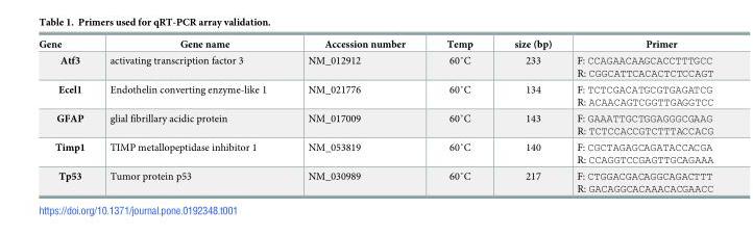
<table><thead><tr><td>Gene</td><td>Gene name</td><td>Accession number</td><td>Temp</td><td>size (bp)</td><td>Primer</td></tr></thead><tbody><tr><td>Atf3</td><td>activating transcription factor 3</td><td>NM_012912</td><td>60˚C</td><td>233</td><td>F: CCAGAACAAGCACCTTTGCC R: CGGCATTCACACTCTCCAGT</td></tr><tr><td>Ecel1</td><td>Endothelin converting enzyme-like 1</td><td>NM_021776</td><td>60˚C</td><td>134</td><td>F: TCTCGACATGCGTGAGATCG R: ACAACAGTCGGTTGAGGTCC</td></tr><tr><td>GFAP</td><td>glial fibrillary acidic protein</td><td>NM_017009</td><td>60˚C</td><td>143</td><td>F: GAAATTGCTGGAGGGCGAAG R: TCTCCACCGTCTTTACCACG</td></tr><tr><td>Timp1</td><td>TIMP metallopeptidase inhibitor 1</td><td>NM_053819</td><td>60˚C</td><td>140</td><td>F: CGCTAGAGCAGATACCACGA R: CCAGGTCCGAGTTGCAGAAA</td></tr><tr><td>Tp53</td><td>Tumor protein p53</td><td>NM_030989</td><td>60˚C</td><td>217</td><td>F: CTGGACGACAGGCAGACTTT R: GACAGGCACAAACACGAACC</td></tr></tbody></table>